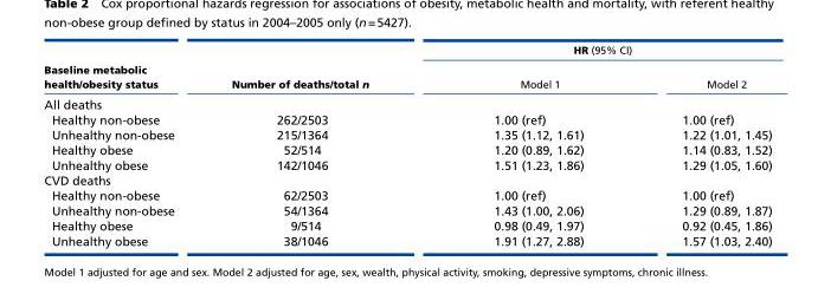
<table><thead><tr><td rowspan="2">Baseline metabolic health/obesity status</td><td rowspan="2">Number of deaths/total n</td><td colspan="2">HR (95% CI)</td></tr><tr><td>Model 1</td><td>Model 2</td></tr></thead><tbody><tr><td colspan="4">All deaths</td></tr><tr><td>Healthy non-obese</td><td>262/2503</td><td>1.00 (ref)</td><td>1.00 (ref)</td></tr><tr><td>Unhealthy non-obese</td><td>215/1364</td><td>1.35 (1.12, 1.61)</td><td>1.22 (1.01, 1.45)</td></tr><tr><td>Healthy obese</td><td>52/514</td><td>1.20 (0.89, 1.62)</td><td>1.14 (0.83, 1.52)</td></tr><tr><td>Unhealthy obese</td><td>142/1046</td><td>1.51 (1.23, 1.86)</td><td>1.29 (1.05, 1.60)</td></tr><tr><td colspan="4">CVD deaths</td></tr><tr><td>Healthy non-obese</td><td>62/2503</td><td>1.00 (ref)</td><td>1.00 (ref)</td></tr><tr><td>Unhealthy non-obese</td><td>54/1364</td><td>1.43 (1.00, 2.06)</td><td>1.29 (0.89, 1.87)</td></tr><tr><td>Healthy obese</td><td>9/514</td><td>0.98 (0.49, 1.97)</td><td>0.92 (0.45, 1.86)</td></tr><tr><td>Unhealthy obese</td><td>38/1046</td><td>1.91 (1.27, 2.88)</td><td>1.57 (1.03, 2.40)</td></tr></tbody></table>